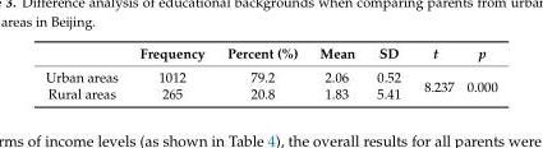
<table><thead><tr><td></td><td>Frequency</td><td>Percent (%)</td><td>Mean</td><td>SD</td><td>t</td><td>p</td></tr></thead><tbody><tr><td>Urban areas</td><td>1012</td><td>79.2</td><td>2.06</td><td>0.52</td><td rowspan="2">8.237</td><td rowspan="2">0.000</td></tr><tr><td>Rural areas</td><td>265</td><td>20.8</td><td>1.83</td><td>5.41</td></tr></tbody></table>